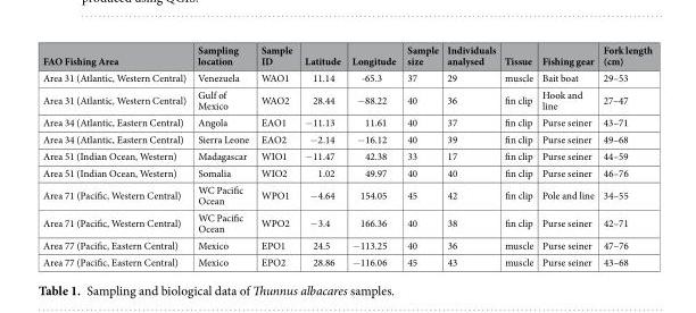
<table><thead><tr><td>FAO Fishing Area</td><td>Sampling location</td><td>Sample ID</td><td>Latitude</td><td>Longitude</td><td>Sample size</td><td>Individuals analysed</td><td>Tissue</td><td>Fishing gear</td><td>Fork length (cm)</td></tr></thead><tbody><tr><td>Area 31 (Atlantic, Western Central)</td><td>Venezuela</td><td>WAO1</td><td>11.14</td><td>-65.3</td><td>37</td><td>29</td><td>muscle</td><td>Bait boat</td><td>29–53</td></tr><tr><td>Area 31 (Atlantic, Western Central)</td><td>Gulf of Mexico</td><td>WAO2</td><td>28.44</td><td>−88.22</td><td>40</td><td>36</td><td>fin clip</td><td>Hook and line</td><td>27–47</td></tr><tr><td>Area 34 (Atlantic, Eastern Central)</td><td>Angola</td><td>EAO1</td><td>−11.13</td><td>11.61</td><td>40</td><td>37</td><td>fin clip</td><td>Purse seiner</td><td>43–71</td></tr><tr><td>Area 34 (Atlantic, Eastern Central)</td><td>Sierra Leone</td><td>EAO2</td><td>−2.14</td><td>−16.12</td><td>40</td><td>39</td><td>fin clip</td><td>Purse seiner</td><td>49–68</td></tr><tr><td>Area 51 (Indian Ocean, Western)</td><td>Madagascar</td><td>WIO1</td><td>−11.47</td><td>42.38</td><td>33</td><td>17</td><td>fin clip</td><td>Purse seiner</td><td>44–59</td></tr><tr><td>Area 51 (Indian Ocean, Western)</td><td>Somalia</td><td>WIO2</td><td>1.02</td><td>49.97</td><td>40</td><td>40</td><td>fin clip</td><td>Purse seiner</td><td>46–76</td></tr><tr><td>Area 71 (Pacific, Western Central)</td><td>WC Pacific Ocean</td><td>WPO1</td><td>−4.64</td><td>154.05</td><td>45</td><td>42</td><td>fin clip</td><td>Pole and line</td><td>34–55</td></tr><tr><td>Area 71 (Pacific, Western Central)</td><td>WC Pacific Ocean</td><td>WPO2</td><td>−3.4</td><td>166.36</td><td>40</td><td>38</td><td>fin clip</td><td>Purse seiner</td><td>42–71</td></tr><tr><td>Area 77 (Pacific, Eastern Central)</td><td>Mexico</td><td>EPO1</td><td>24.5</td><td>−113.25</td><td>40</td><td>36</td><td>muscle</td><td>Purse seiner</td><td>47–76</td></tr><tr><td>Area 77 (Pacific, Eastern Central)</td><td>Mexico</td><td>EPO2</td><td>28.86</td><td>−116.06</td><td>45</td><td>43</td><td>muscle</td><td>Purse seiner</td><td>43–68</td></tr></tbody></table>